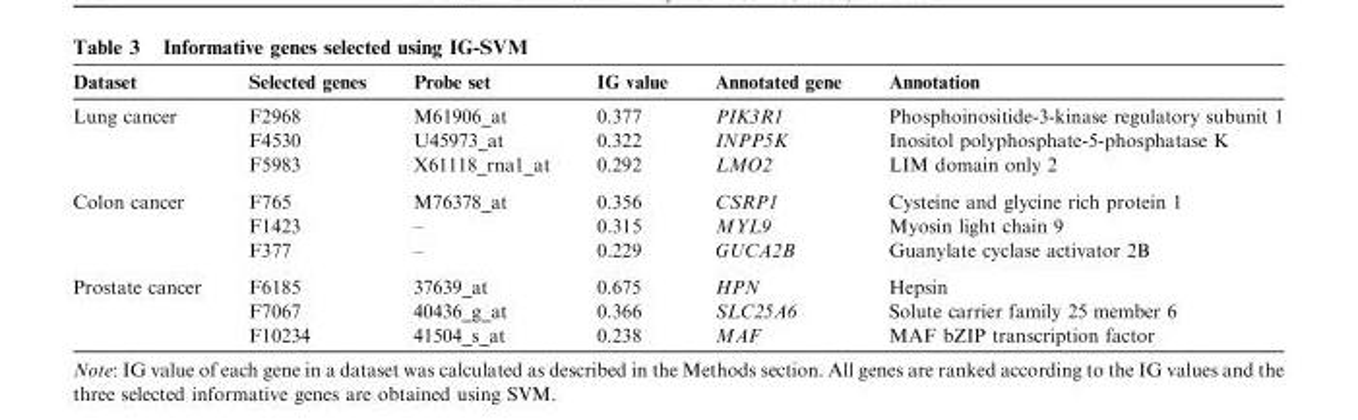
<table><thead><tr><td>Dataset</td><td>Selected genes</td><td>Probe set</td><td>IG value</td><td>Annotated gene</td><td>Annotation</td></tr></thead><tbody><tr><td rowspan="3">Lung cancer</td><td>F2968</td><td>M61906_at</td><td>0.377</td><td>PIK3R1</td><td>Phosphoinositide-3-kinase regulatory subunit 1</td></tr><tr><td>F4530</td><td>U45973_at</td><td>0.322</td><td>INPP5K</td><td>Inositol polyphosphate-5-phosphatase K</td></tr><tr><td>F5983</td><td>X61118_rna1_at</td><td>0.292</td><td>LMO2</td><td>LIM domain only 2</td></tr><tr><td rowspan="3">Colon cancer</td><td>F765</td><td>M76378_at</td><td>0.356</td><td>CSRP1</td><td>Cysteine and glycine rich protein 1</td></tr><tr><td>F1423</td><td>–</td><td>0.315</td><td>MYL9</td><td>Myosin light chain 9</td></tr><tr><td>F377</td><td>–</td><td>0.229</td><td>GUCA2B</td><td>Guanylate cyclase activator 2B</td></tr><tr><td rowspan="3">Prostate cancer</td><td>F6185</td><td>37639_at</td><td>0.675</td><td>HPN</td><td>Hepsin</td></tr><tr><td>F7067</td><td>40436_g_at</td><td>0.366</td><td>SLC25A6</td><td>Solute carrier family 25 member 6</td></tr><tr><td>F10234</td><td>41504_s_at</td><td>0.238</td><td>MAF</td><td>MAF bZIP transcription factor</td></tr></tbody></table>